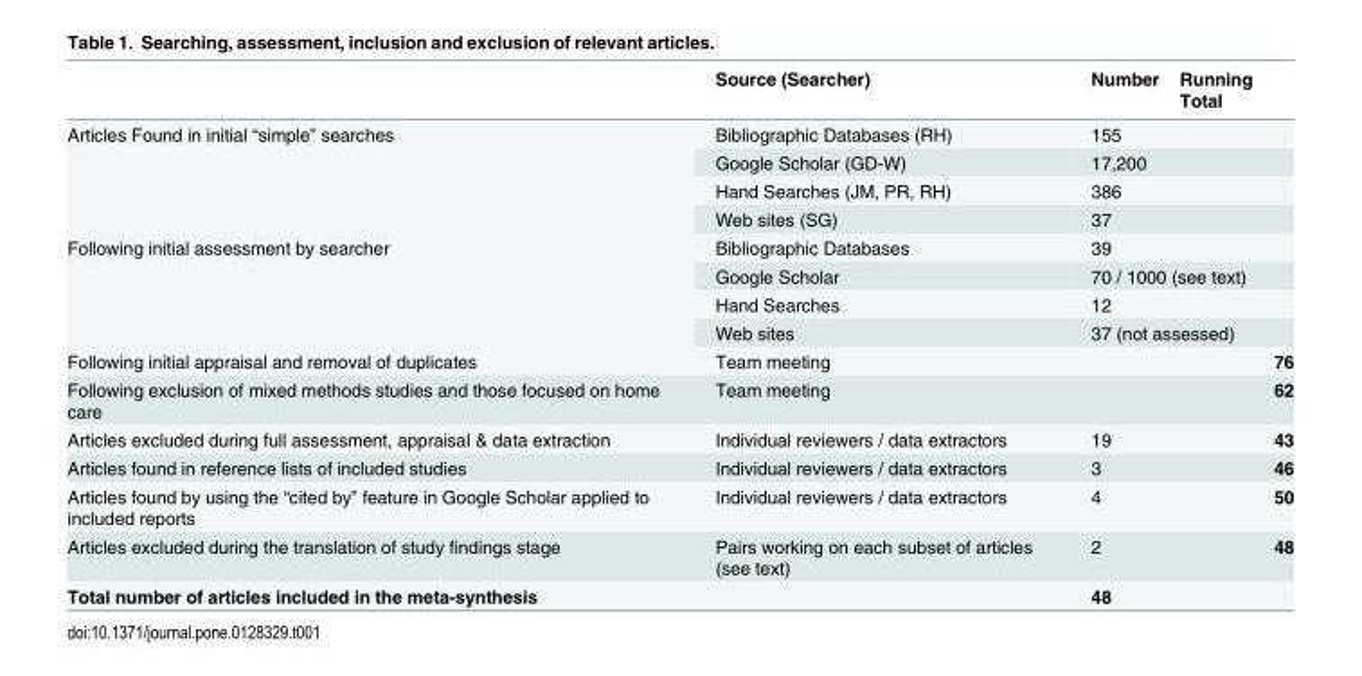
<table><thead><tr><td></td><td>Source (Searcher)</td><td>Number</td><td>Running Total</td></tr></thead><tbody><tr><td rowspan="4">Articles Found in initial “simple” searches</td><td>Bibliographic Databases (RH)</td><td colspan="2">155</td></tr><tr><td>Google Scholar (GD-W)</td><td colspan="2">17,200</td></tr><tr><td>Hand Searches (JM, PR, RH)</td><td colspan="2">386</td></tr><tr><td>Web sites (SG)</td><td colspan="2">37</td></tr><tr><td rowspan="4">Following initial assessment by searcher</td><td>Bibliographic Databases</td><td colspan="2">39</td></tr><tr><td>Google Scholar</td><td colspan="2">70 / 1000 (see text)</td></tr><tr><td>Hand Searches</td><td colspan="2">12</td></tr><tr><td>Web sites</td><td colspan="2">37 (not assessed)</td></tr><tr><td>Following initial appraisal and removal of duplicates</td><td>Team meeting</td><td></td><td>76</td></tr><tr><td>Following exclusion of mixed methods studies and those focused on home care</td><td>Team meeting</td><td></td><td>62</td></tr><tr><td>Articles excluded during full assessment, appraisal &amp; data extraction</td><td>Individual reviewers / data extractors</td><td>19</td><td>43</td></tr><tr><td>Articles found in reference lists of included studies</td><td>Individual reviewers / data extractors</td><td>3</td><td>46</td></tr><tr><td>Articles found by using the “cited by” feature in Google Scholar applied to included reports</td><td>Individual reviewers / data extractors</td><td>4</td><td>50</td></tr><tr><td>Articles excluded during the translation of study findings stage</td><td>Pairs working on each subset of articles (see text)</td><td>2</td><td>48</td></tr><tr><td colspan="2">Total number of articles included in the meta-synthesis</td><td colspan="2">48</td></tr></tbody></table>